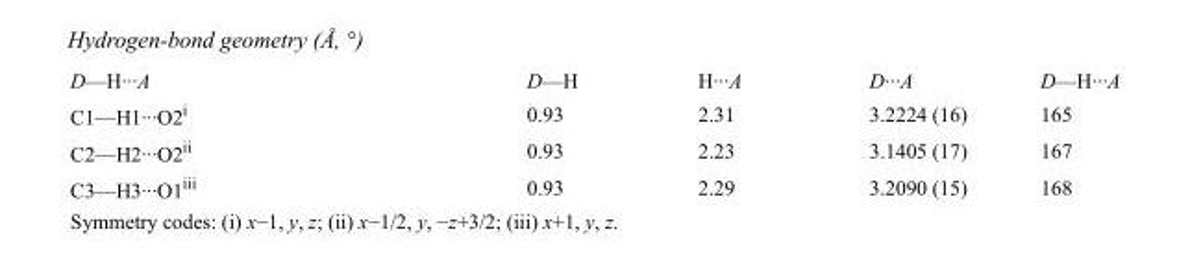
<table><tbody><tr><td>D—H···A</td><td>D—H</td><td>H···A</td><td>D···A</td><td>D—H···A</td></tr><tr><td>C1—H1···O2<sup>i</sup></td><td>0.93</td><td>2.31</td><td>3.2224 (16)</td><td>165</td></tr><tr><td>C2—H2···O2<sup>ii</sup></td><td>0.93</td><td>2.23</td><td>3.1405 (17)</td><td>167</td></tr><tr><td>C3—H3···O1<sup>iii</sup></td><td>0.93</td><td>2.29</td><td>3.2090 (15)</td><td>168</td></tr></tbody></table>